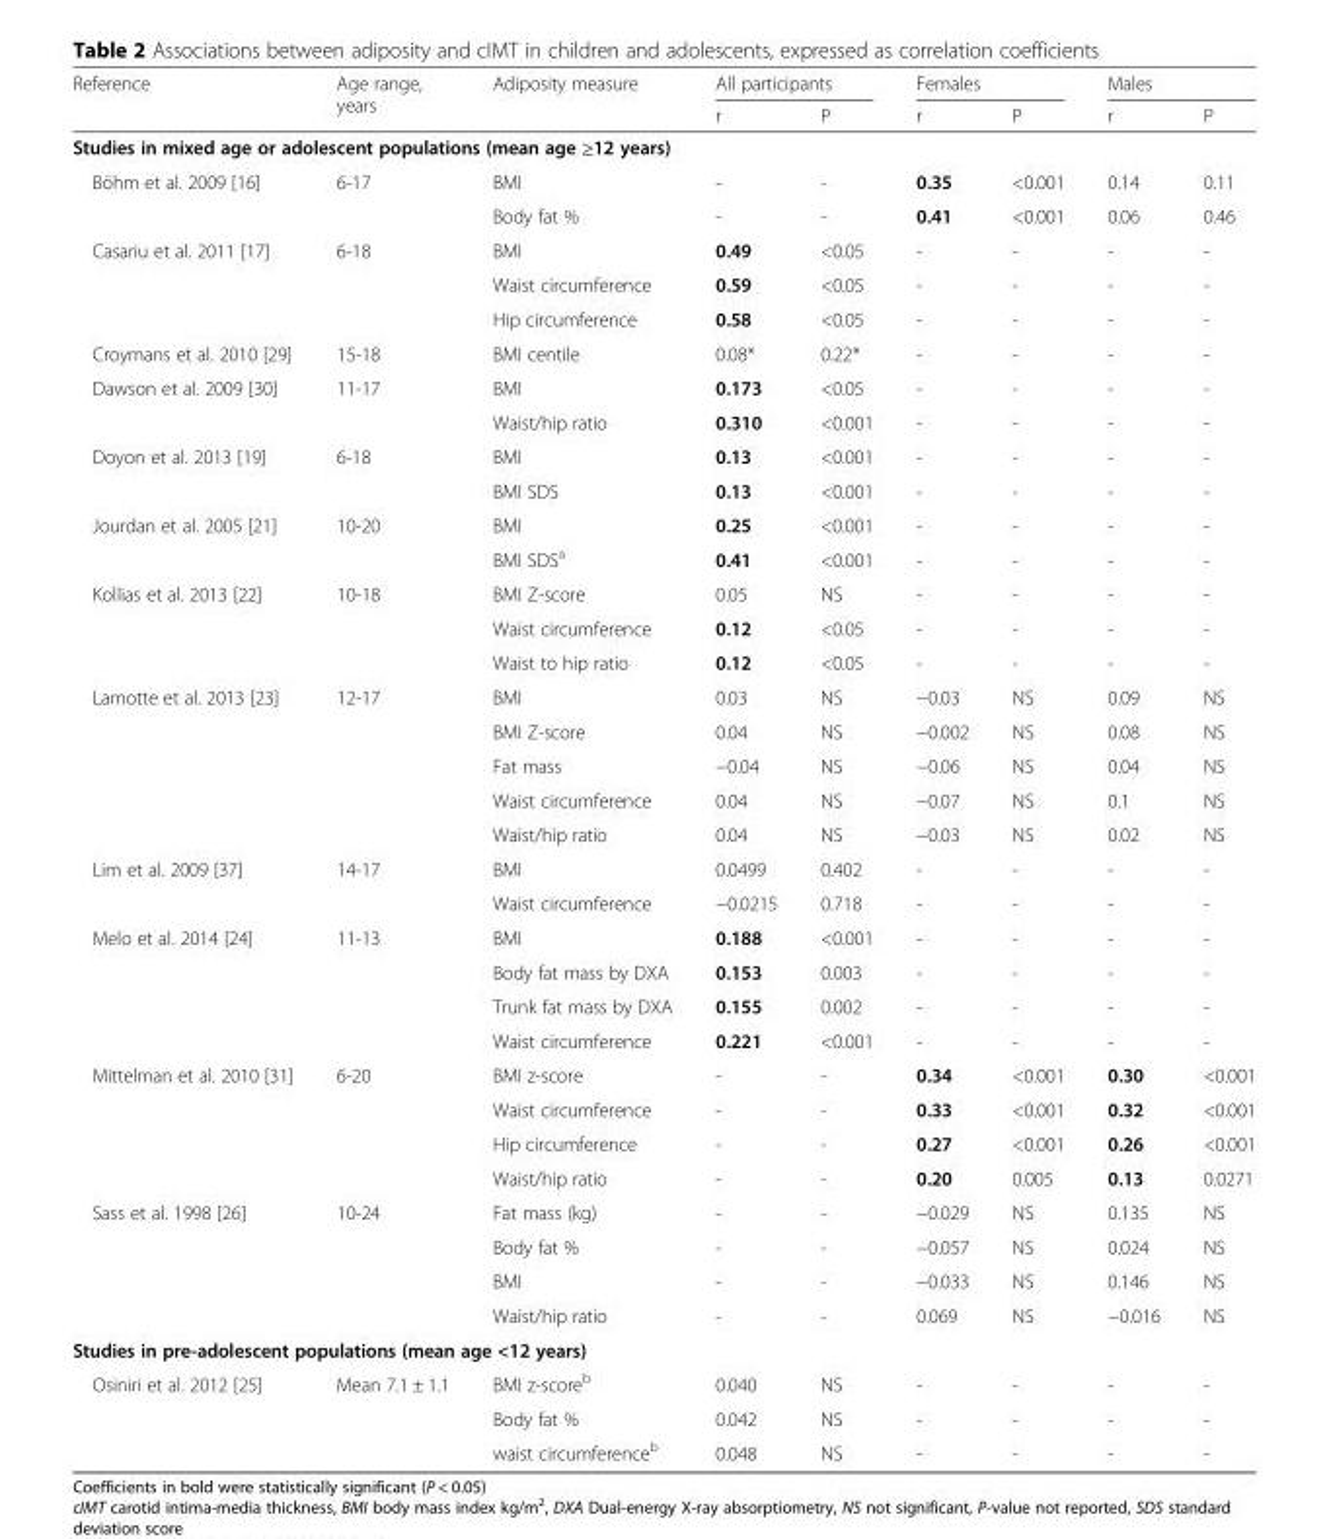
<table><thead><tr><td rowspan="2">Reference</td><td rowspan="2">Age range, years</td><td rowspan="2">Adiposity measure</td><td colspan="2">All participants</td><td colspan="2">Females</td><td colspan="2">Males</td></tr><tr><td>r</td><td>P</td><td>r</td><td>P</td><td>r</td><td>P</td></tr></thead><tbody><tr><td colspan="9">Studies in mixed age or adolescent populations (mean age ≥12 years)</td></tr><tr><td rowspan="2">Böhm et al. 2009 [16]</td><td rowspan="2">6-17</td><td>BMI</td><td>-</td><td>-</td><td>0.35</td><td>&lt;0.001</td><td>0.14</td><td>0.11</td></tr><tr><td>Body fat %</td><td>-</td><td>-</td><td>0.41</td><td>&lt;0.001</td><td>0.06</td><td>0.46</td></tr><tr><td rowspan="3">Casariu et al. 2011 [17]</td><td rowspan="3">6-18</td><td>BMI</td><td>0.49</td><td>&lt;0.05</td><td>-</td><td>-</td><td>-</td><td>-</td></tr><tr><td>Waist circumference</td><td>0.59</td><td>&lt;0.05</td><td>-</td><td>-</td><td>-</td><td>-</td></tr><tr><td>Hip circumference</td><td>0.58</td><td>&lt;0.05</td><td>-</td><td>-</td><td>-</td><td>-</td></tr><tr><td>Croymans et al. 2010 [29]</td><td>15-18</td><td>BMI centile</td><td>0.08*</td><td>0.22*</td><td>-</td><td>-</td><td>-</td><td>-</td></tr><tr><td rowspan="2">Dawson et al. 2009 [30]</td><td rowspan="2">11-17</td><td>BMI</td><td>0.173</td><td>&lt;0.05</td><td>-</td><td>-</td><td>-</td><td>-</td></tr><tr><td>Waist/hip ratio</td><td>0.310</td><td>&lt;0.001</td><td>-</td><td>-</td><td>-</td><td>-</td></tr><tr><td rowspan="2">Doyon et al. 2013 [19]</td><td rowspan="2">6-18</td><td>BMI</td><td>0.13</td><td>&lt;0.001</td><td>-</td><td>-</td><td>-</td><td>-</td></tr><tr><td>BMI SDS</td><td>0.13</td><td>&lt;0.001</td><td>-</td><td>-</td><td>-</td><td>-</td></tr><tr><td rowspan="2">Jourdan et al. 2005 [21]</td><td rowspan="2">10-20</td><td>BMI</td><td>0.25</td><td>&lt;0.001</td><td>-</td><td>-</td><td>-</td><td>-</td></tr><tr><td>BMI SDS<sup>a</sup></td><td>0.41</td><td>&lt;0.001</td><td>-</td><td>-</td><td>-</td><td>-</td></tr><tr><td rowspan="3">Kollias et al. 2013 [22]</td><td rowspan="3">10-18</td><td>BMI Z-score</td><td>0.05</td><td>NS</td><td>-</td><td>-</td><td>-</td><td>-</td></tr><tr><td>Waist circumference</td><td>0.12</td><td>&lt;0.05</td><td>-</td><td>-</td><td>-</td><td>-</td></tr><tr><td>Waist to hip ratio</td><td>0.12</td><td>&lt;0.05</td><td>-</td><td>-</td><td>-</td><td>-</td></tr><tr><td rowspan="5">Lamotte et al. 2013 [23]</td><td rowspan="5">12-17</td><td>BMI</td><td>0.03</td><td>NS</td><td>−0.03</td><td>NS</td><td>0.09</td><td>NS</td></tr><tr><td>BMI Z-score</td><td>0.04</td><td>NS</td><td>−0.002</td><td>NS</td><td>0.08</td><td>NS</td></tr><tr><td>Fat mass</td><td>−0.04</td><td>NS</td><td>−0.06</td><td>NS</td><td>0.04</td><td>NS</td></tr><tr><td>Waist circumference</td><td>0.04</td><td>NS</td><td>−0.07</td><td>NS</td><td>0.1</td><td>NS</td></tr><tr><td>Waist/hip ratio</td><td>0.04</td><td>NS</td><td>−0.03</td><td>NS</td><td>0.02</td><td>NS</td></tr><tr><td rowspan="2">Lim et al. 2009 [37]</td><td rowspan="2">14-17</td><td>BMI</td><td>0.0499</td><td>0.402</td><td>-</td><td>-</td><td>-</td><td>-</td></tr><tr><td>Waist circumference</td><td>−0.0215</td><td>0.718</td><td>-</td><td>-</td><td>-</td><td>-</td></tr><tr><td rowspan="4">Melo et al. 2014 [24]</td><td rowspan="4">11-13</td><td>BMI</td><td>0.188</td><td>&lt;0.001</td><td>-</td><td>-</td><td>-</td><td>-</td></tr><tr><td>Body fat mass by DXA</td><td>0.153</td><td>0.003</td><td>-</td><td>-</td><td>-</td><td>-</td></tr><tr><td>Trunk fat mass by DXA</td><td>0.155</td><td>0.002</td><td>-</td><td>-</td><td>-</td><td>-</td></tr><tr><td>Waist circumference</td><td>0.221</td><td>&lt;0.001</td><td>-</td><td>-</td><td>-</td><td>-</td></tr><tr><td rowspan="4">Mittelman et al. 2010 [31]</td><td rowspan="4">6-20</td><td>BMI z-score</td><td>-</td><td>-</td><td>0.34</td><td>&lt;0.001</td><td>0.30</td><td>&lt;0.001</td></tr><tr><td>Waist circumference</td><td>-</td><td>-</td><td>0.33</td><td>&lt;0.001</td><td>0.32</td><td>&lt;0.001</td></tr><tr><td>Hip circumference</td><td>-</td><td>-</td><td>0.27</td><td>&lt;0.001</td><td>0.26</td><td>&lt;0.001</td></tr><tr><td>Waist/hip ratio</td><td>-</td><td>-</td><td>0.20</td><td>0.005</td><td>0.13</td><td>0.0271</td></tr><tr><td rowspan="4">Sass et al. 1998 [26]</td><td rowspan="4">10-24</td><td>Fat mass (kg)</td><td>-</td><td>-</td><td>−0.029</td><td>NS</td><td>0.135</td><td>NS</td></tr><tr><td>Body fat %</td><td>-</td><td>-</td><td>−0.057</td><td>NS</td><td>0.024</td><td>NS</td></tr><tr><td>BMI</td><td>-</td><td>-</td><td>−0.033</td><td>NS</td><td>0.146</td><td>NS</td></tr><tr><td>Waist/hip ratio</td><td>-</td><td>-</td><td>0.069</td><td>NS</td><td>−0.016</td><td>NS</td></tr><tr><td colspan="9">Studies in pre-adolescent populations (mean age &lt;12 years)</td></tr><tr><td rowspan="3">Osiniri et al. 2012 [25]</td><td rowspan="3">Mean 7.1 ± 1.1</td><td>BMI z-score<sup>b</sup></td><td>0.040</td><td>NS</td><td>-</td><td>-</td><td>-</td><td>-</td></tr><tr><td>Body fat %</td><td>0.042</td><td>NS</td><td>-</td><td>-</td><td>-</td><td>-</td></tr><tr><td>waist circumference<sup>b</sup></td><td>0.048</td><td>NS</td><td>-</td><td>-</td><td>-</td><td>-</td></tr></tbody></table>